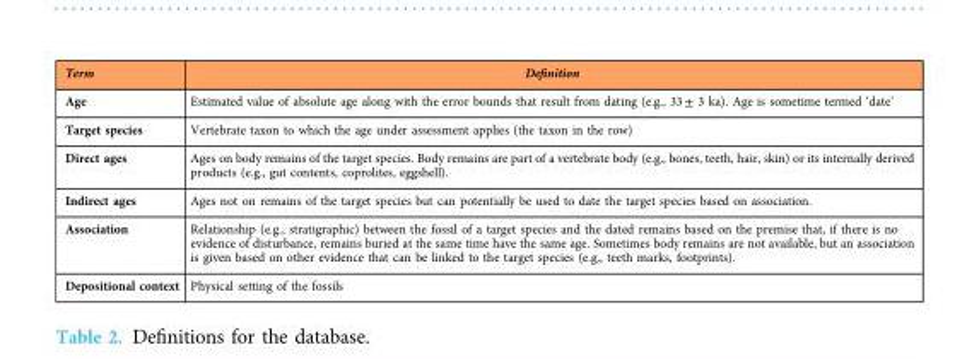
<table><thead><tr><td>Term</td><td>Definition</td></tr></thead><tbody><tr><td>Age</td><td>Estimated value of absolute age along with the error bounds that result from dating (e.g., 33 ± 3 ka). Age is sometime termed ‘date’</td></tr><tr><td>Target species</td><td>Vertebrate taxon to which the age under assessment applies (the taxon in the row)</td></tr><tr><td>Direct ages</td><td>Ages on body remains of the target species. Body remains are part of a vertebrate body (e.g., bones, teeth, hair, skin) or its internally derived products (e.g., gut contents, coprolites, eggshell).</td></tr><tr><td>Indirect ages</td><td>Ages not on remains of the target species but can potentially be used to date the target species based on association.</td></tr><tr><td>Association</td><td>Relationship (e.g., stratigraphic) between the fossil of a target species and the dated remains based on the premise that, if there is no evidence of disturbance, remains buried at the same time have the same age. Sometimes body remains are not available, but an association is given based on other evidence that can be linked to the target species (e.g., teeth marks, footprints).</td></tr><tr><td>Depositional context</td><td>Physical setting of the fossils</td></tr></tbody></table>